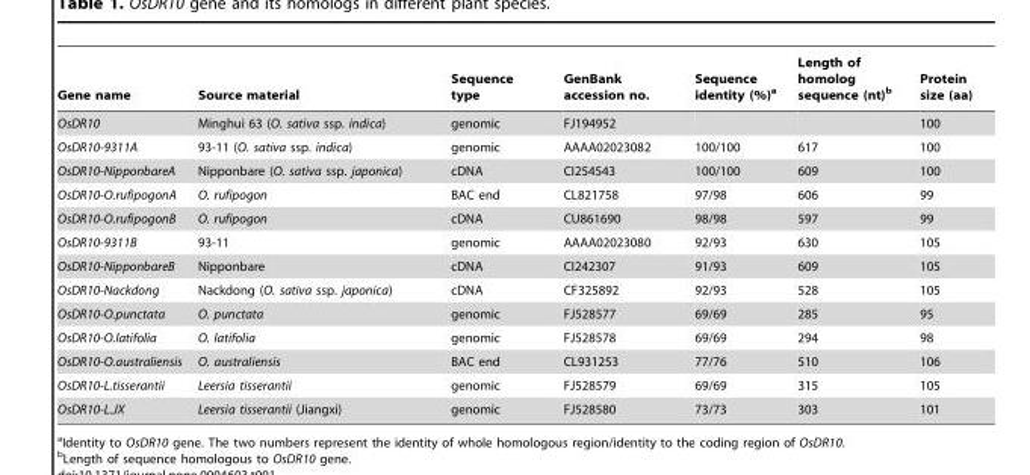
<table><thead><tr><td>Gene name</td><td>Source material</td><td>Sequence type</td><td>GenBank accession no.</td><td>Sequence identity (%)<sup>a</sup></td><td>Length of homolog sequence (nt)<sup>b</sup></td><td>Protein size (aa)</td></tr></thead><tbody><tr><td>OsDR10</td><td>Minghui 63 (O. sativa ssp. indica)</td><td>genomic</td><td>FJ194952</td><td></td><td></td><td>100</td></tr><tr><td>OsDR10-9311A</td><td>93-11 (O. sativa ssp. indica)</td><td>genomic</td><td>AAAA02023082</td><td>100/100</td><td>617</td><td>100</td></tr><tr><td>OsDR10-NipponbareA</td><td>Nipponbare (O. sativa ssp. japonica)</td><td>cDNA</td><td>CI254543</td><td>100/100</td><td>609</td><td>100</td></tr><tr><td>OsDR10-O.rufipogonA</td><td>O. rufipogon</td><td>BAC end</td><td>CL821758</td><td>97/98</td><td>606</td><td>99</td></tr><tr><td>OsDR10-O.rufipogonB</td><td>O. rufipogon</td><td>cDNA</td><td>CU861690</td><td>98/98</td><td>597</td><td>99</td></tr><tr><td>OsDR10-9311B</td><td>93-11</td><td>genomic</td><td>AAAA02023080</td><td>92/93</td><td>630</td><td>105</td></tr><tr><td>OsDR10-NipponbareB</td><td>Nipponbare</td><td>cDNA</td><td>CI242307</td><td>91/93</td><td>609</td><td>105</td></tr><tr><td>OsDR10-Nackdong</td><td>Nackdong (O. sativa ssp. japonica)</td><td>cDNA</td><td>CF325892</td><td>92/93</td><td>528</td><td>105</td></tr><tr><td>OsDR10-O.punctata</td><td>O. punctata</td><td>genomic</td><td>FJ528577</td><td>69/69</td><td>285</td><td>95</td></tr><tr><td>OsDR10-O.latifolia</td><td>O. latifolia</td><td>genomic</td><td>FJ528578</td><td>69/69</td><td>294</td><td>98</td></tr><tr><td>OsDR10-O.australiensis</td><td>O. australiensis</td><td>BAC end</td><td>CL931253</td><td>77/76</td><td>510</td><td>106</td></tr><tr><td>OsDR10-L.tisserantii</td><td>Leersia tisserantii</td><td>genomic</td><td>FJ528579</td><td>69/69</td><td>315</td><td>105</td></tr><tr><td>OsDR10-L.JX</td><td>Leersia tisserantii (Jiangxi)</td><td>genomic</td><td>FJ528580</td><td>73/73</td><td>303</td><td>101</td></tr></tbody></table>